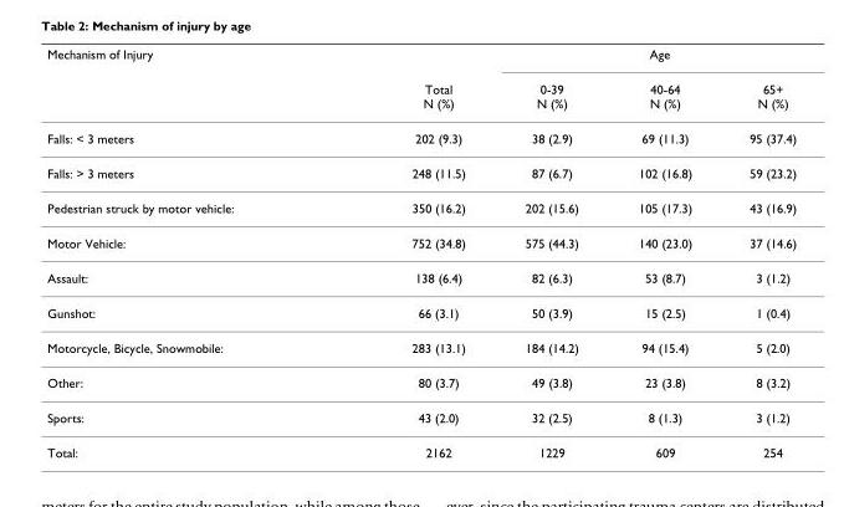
<table><thead><tr><td rowspan="2">Mechanism of Injury</td><td rowspan="2">Total N (%)</td><td colspan="3">Age</td></tr><tr><td>0-39 N (%)</td><td>40-64 N (%)</td><td>65+ N (%)</td></tr></thead><tbody><tr><td>Falls: &lt; 3 meters</td><td>202 (9.3)</td><td>38 (2.9)</td><td>69 (11.3)</td><td>95 (37.4)</td></tr><tr><td>Falls: &gt; 3 meters</td><td>248 (11.5)</td><td>87 (6.7)</td><td>102 (16.8)</td><td>59 (23.2)</td></tr><tr><td>Pedestrian struck by motor vehicle:</td><td>350 (16.2)</td><td>202 (15.6)</td><td>105 (17.3)</td><td>43 (16.9)</td></tr><tr><td>Motor Vehicle:</td><td>752 (34.8)</td><td>575 (44.3)</td><td>140 (23.0)</td><td>37 (14.6)</td></tr><tr><td>Assault:</td><td>138 (6.4)</td><td>82 (6.3)</td><td>53 (8.7)</td><td>3 (1.2)</td></tr><tr><td>Gunshot:</td><td>66 (3.1)</td><td>50 (3.9)</td><td>15 (2.5)</td><td>1 (0.4)</td></tr><tr><td>Motorcycle, Bicycle, Snowmobile:</td><td>283 (13.1)</td><td>184 (14.2)</td><td>94 (15.4)</td><td>5 (2.0)</td></tr><tr><td>Other:</td><td>80 (3.7)</td><td>49 (3.8)</td><td>23 (3.8)</td><td>8 (3.2)</td></tr><tr><td>Sports:</td><td>43 (2.0)</td><td>32 (2.5)</td><td>8 (1.3)</td><td>3 (1.2)</td></tr><tr><td>Total:</td><td>2162</td><td>1229</td><td>609</td><td>254</td></tr></tbody></table>